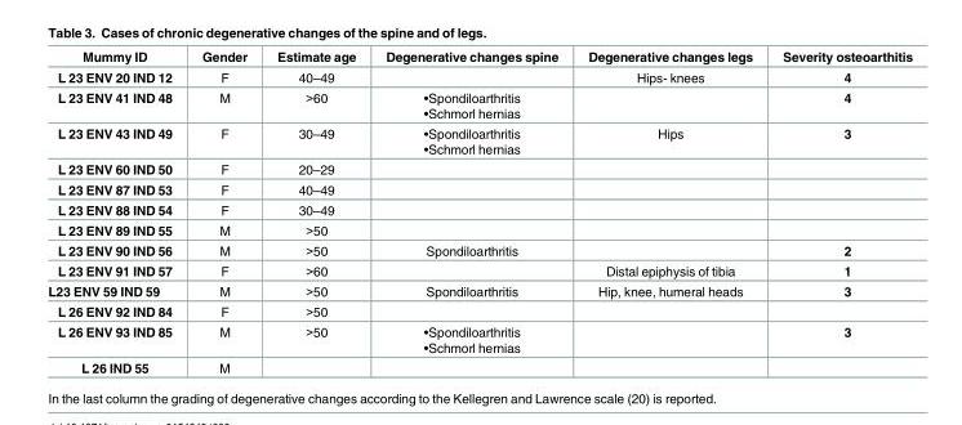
<table><thead><tr><td>Mummy ID</td><td>Gender</td><td>Estimate age</td><td>Degenerative changes spine</td><td>Degenerative changes legs</td><td>Severity osteoarthitis</td></tr></thead><tbody><tr><td>L 23 ENV 20 IND 12</td><td>F</td><td>40–49</td><td></td><td>Hips- knees</td><td>4</td></tr><tr><td>L 23 ENV 41 IND 48</td><td>M</td><td>&gt;60</td><td>•Spondiloarthritis •Schmorl hernias</td><td></td><td>4</td></tr><tr><td>L 23 ENV 43 IND 49</td><td>F</td><td>30–49</td><td>•Spondiloarthritis •Schmorl hernias</td><td>Hips</td><td>3</td></tr><tr><td>L 23 ENV 60 IND 50</td><td>F</td><td>20–29</td><td></td><td></td><td></td></tr><tr><td>L 23 ENV 87 IND 53</td><td>F</td><td>40–49</td><td></td><td></td><td></td></tr><tr><td>L 23 ENV 88 IND 54</td><td>F</td><td>30–49</td><td></td><td></td><td></td></tr><tr><td>L 23 ENV 89 IND 55</td><td>M</td><td>&gt;50</td><td></td><td></td><td></td></tr><tr><td>L 23 ENV 90 IND 56</td><td>M</td><td>&gt;50</td><td>Spondiloarthritis</td><td></td><td>2</td></tr><tr><td>L 23 ENV 91 IND 57</td><td>F</td><td>&gt;60</td><td></td><td>Distal epiphysis of tibia</td><td>1</td></tr><tr><td>L23 ENV 59 IND 59</td><td>M</td><td>&gt;50</td><td>Spondiloarthritis</td><td>Hip, knee, humeral heads</td><td>3</td></tr><tr><td>L 26 ENV 92 IND 84</td><td>F</td><td>&gt;50</td><td></td><td></td><td></td></tr><tr><td>L 26 ENV 93 IND 85</td><td>M</td><td>&gt;50</td><td>•Spondiloarthritis •Schmorl hernias</td><td></td><td>3</td></tr><tr><td>L 26 IND 55</td><td>M</td><td></td><td></td><td></td><td></td></tr></tbody></table>